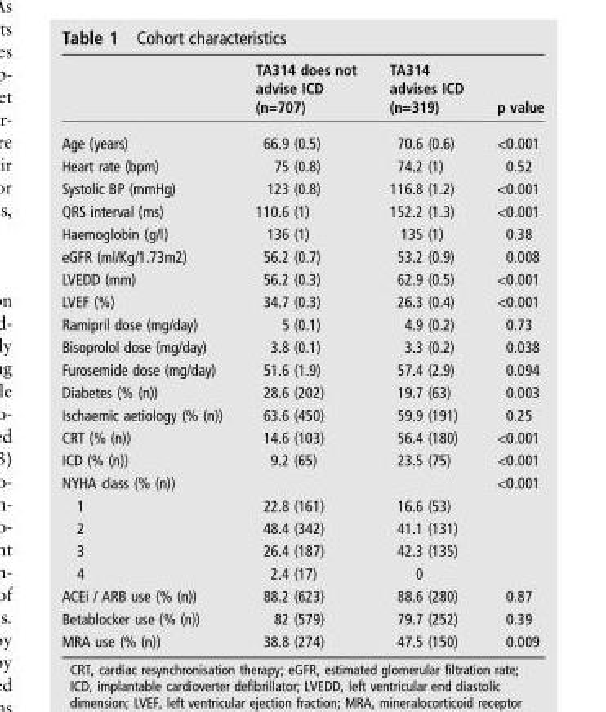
<table><thead><tr><td></td><td>TA314 does not advise ICD (n=707)</td><td>TA314 advises ICD (n=319)</td><td>p value</td></tr></thead><tbody><tr><td>Age (years)</td><td>66.9 (0.5)</td><td>70.6 (0.6)</td><td>&lt;0.001</td></tr><tr><td>Heart rate (bpm)</td><td>75 (0.8)</td><td>74.2 (1)</td><td>0.52</td></tr><tr><td>Systolic BP (mmHg)</td><td>123 (0.8)</td><td>116.8 (1.2)</td><td>&lt;0.001</td></tr><tr><td>QRS interval (ms)</td><td>110.6 (1)</td><td>152.2 (1.3)</td><td>&lt;0.001</td></tr><tr><td>Haemoglobin (g/l)</td><td>136 (1)</td><td>135 (1)</td><td>0.38</td></tr><tr><td>eGFR (ml/Kg/1.73m2)</td><td>56.2 (0.7)</td><td>53.2 (0.9)</td><td>0.008</td></tr><tr><td>LVEDD (mm)</td><td>56.2 (0.3)</td><td>62.9 (0.5)</td><td>&lt;0.001</td></tr><tr><td>LVEF (%)</td><td>34.7 (0.3)</td><td>26.3 (0.4)</td><td>&lt;0.001</td></tr><tr><td>Ramipril dose (mg/day)</td><td>5 (0.1)</td><td>4.9 (0.2)</td><td>0.73</td></tr><tr><td>Bisoprolol dose (mg/day)</td><td>3.8 (0.1)</td><td>3.3 (0.2)</td><td>0.038</td></tr><tr><td>Furosemide dose (mg/day)</td><td>51.6 (1.9)</td><td>57.4 (2.9)</td><td>0.094</td></tr><tr><td>Diabetes (% (n))</td><td>28.6 (202)</td><td>19.7 (63)</td><td>0.003</td></tr><tr><td>Ischaemic aetiology (% (n))</td><td>63.6 (450)</td><td>59.9 (191)</td><td>0.25</td></tr><tr><td>CRT (% (n))</td><td>14.6 (103)</td><td>56.4 (180)</td><td>&lt;0.001</td></tr><tr><td>ICD (% (n))</td><td>9.2 (65)</td><td>23.5 (75)</td><td>&lt;0.001</td></tr><tr><td>NYHA class (% (n))</td><td></td><td></td><td>&lt;0.001</td></tr><tr><td>1</td><td>22.8 (161)</td><td>16.6 (53)</td><td></td></tr><tr><td>2</td><td>48.4 (342)</td><td>41.1 (131)</td><td></td></tr><tr><td>3</td><td>26.4 (187)</td><td>42.3 (135)</td><td></td></tr><tr><td>4</td><td>2.4 (17)</td><td>0</td><td></td></tr><tr><td>ACEi / ARB use (% (n))</td><td>88.2 (623)</td><td>88.6 (280)</td><td>0.87</td></tr><tr><td>Betablocker use (% (n))</td><td>82 (579)</td><td>79.7 (252)</td><td>0.39</td></tr><tr><td>MRA use (% (n))</td><td>38.8 (274)</td><td>47.5 (150)</td><td>0.009</td></tr></tbody></table>